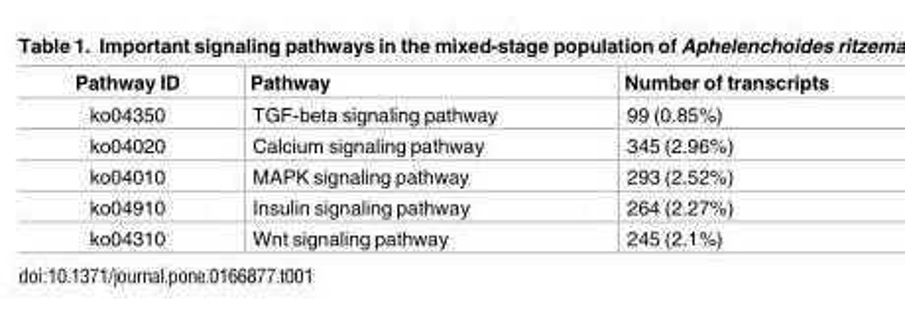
<table><thead><tr><td>Pathway ID</td><td>Pathway</td><td>Number of transcripts</td></tr></thead><tbody><tr><td>ko04350</td><td>TGF-beta signaling pathway</td><td>99 (0.85%)</td></tr><tr><td>ko04020</td><td>Calcium signaling pathway</td><td>345 (2.96%)</td></tr><tr><td>ko04010</td><td>MAPK signaling pathway</td><td>293 (2.52%)</td></tr><tr><td>ko04910</td><td>Insulin signaling pathway</td><td>264 (2.27%)</td></tr><tr><td>ko04310</td><td>Wnt signaling pathway</td><td>245 (2.1%)</td></tr></tbody></table>